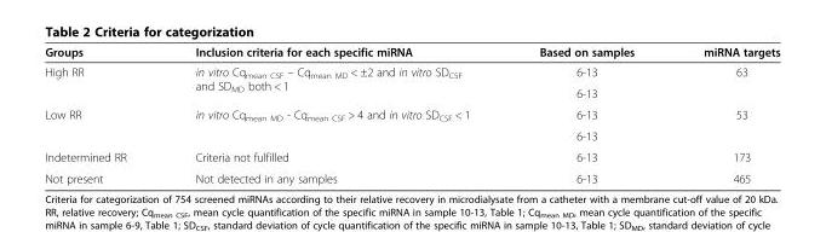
<table><thead><tr><td>Groups</td><td>Inclusion criteria for each specific miRNA</td><td>Based on samples</td><td>miRNA targets</td></tr></thead><tbody><tr><td rowspan="2">High RR</td><td rowspan="2">in vitro Cq<sub>mean CSF</sub> – Cq<sub>mean MD</sub> &lt; ±2 and in vitro SD<sub>CSF</sub> and SD<sub>MD</sub> both &lt; 1</td><td>6-13</td><td rowspan="2">63</td></tr><tr><td>6-13</td></tr><tr><td rowspan="2">Low RR</td><td rowspan="2">in vitro Cq<sub>mean MD</sub> - Cq<sub>mean CSF</sub> &gt; 4 and in vitro SD<sub>CSF</sub> &lt; 1</td><td>6-13</td><td rowspan="2">53</td></tr><tr><td>6-13</td></tr><tr><td>Indetermined RR</td><td>Criteria not fulfilled</td><td>6-13</td><td>173</td></tr><tr><td>Not present</td><td>Not detected in any samples</td><td>6-13</td><td>465</td></tr></tbody></table>